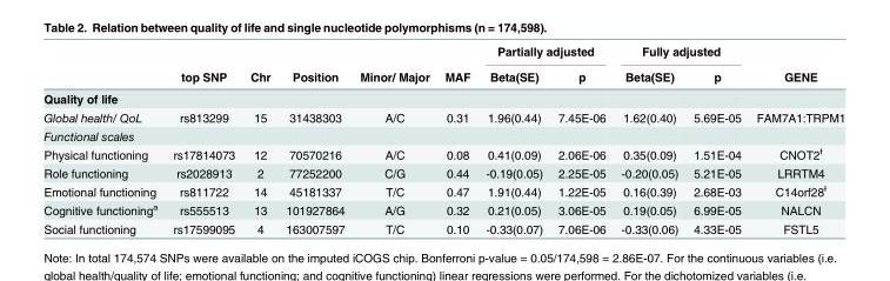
<table><thead><tr><td rowspan="2"></td><td rowspan="2">top SNP</td><td rowspan="2">Chr</td><td rowspan="2">Position</td><td rowspan="2">Minor/ Major</td><td rowspan="2">MAF</td><td colspan="2">Partially adjusted</td><td colspan="2">Fully adjusted</td><td rowspan="2">GENE</td></tr><tr><td>Beta(SE)</td><td>p</td><td>Beta(SE)</td><td>p</td></tr></thead><tbody><tr><td colspan="11">Quality of life</td></tr><tr><td>Global health/ QoL</td><td>rs813299</td><td>15</td><td>31438303</td><td>A/C</td><td>0.31</td><td>1.96(0.44)</td><td>7.45E-06</td><td>1.62(0.40)</td><td>5.69E-05</td><td>FAM7A1:TRPM1</td></tr><tr><td colspan="11">Functional scales</td></tr><tr><td>Physical functioning</td><td>rs17814073</td><td>12</td><td>70570216</td><td>A/C</td><td>0.08</td><td>0.41(0.09)</td><td>2.06E-06</td><td>0.35(0.09)</td><td>1.51E-04</td><td>CNOT2<sup>Ɨ</sup></td></tr><tr><td>Role functioning</td><td>rs2028913</td><td>2</td><td>77252200</td><td>C/G</td><td>0.44</td><td>-0.19(0.05)</td><td>2.25E-05</td><td>-0.20(0.05)</td><td>5.21E-05</td><td>LRRTM4</td></tr><tr><td>Emotional functioning</td><td>rs811722</td><td>14</td><td>45181337</td><td>T/C</td><td>0.47</td><td>1.91(0.44)</td><td>1.22E-05</td><td>0.16(0.39)</td><td>2.68E-03</td><td>C14orf28<sup>Ɨ</sup></td></tr><tr><td>Cognitive functioning<sup>a</sup></td><td>rs555513</td><td>13</td><td>101927864</td><td>A/G</td><td>0.32</td><td>0.21(0.05)</td><td>3.06E-05</td><td>0.19(0.05)</td><td>6.99E-05</td><td>NALCN</td></tr><tr><td>Social functioning</td><td>rs17599095</td><td>4</td><td>163007597</td><td>T/C</td><td>0.10</td><td>-0.33(0.07)</td><td>7.06E-06</td><td>-0.33(0.06)</td><td>4.33E-05</td><td>FSTL5</td></tr></tbody></table>